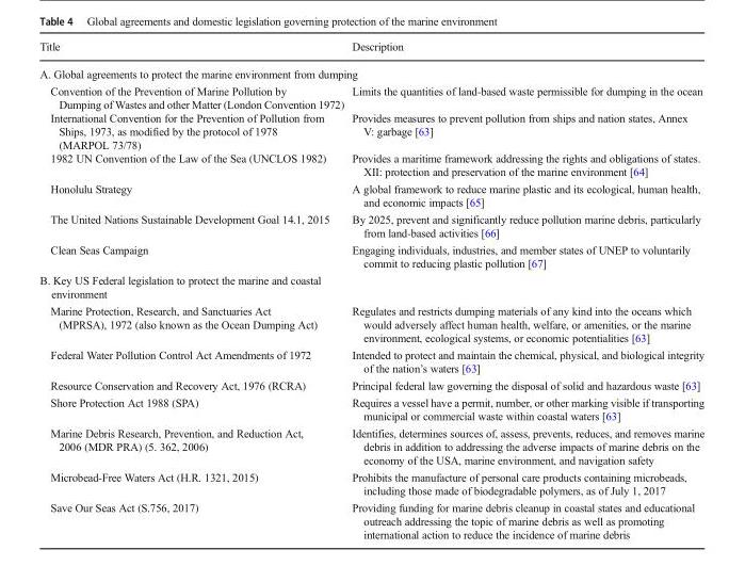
<table><thead><tr><td>Title</td><td>Description</td></tr></thead><tbody><tr><td colspan="2">A. Global agreements to protect the marine environment from dumping</td></tr><tr><td>Convention of the Prevention of Marine Pollution by Dumping of Wastes and other Matter (London Convention 1972)</td><td>Limits the quantities of land-based waste permissible for dumping in the ocean</td></tr><tr><td>International Convention for the Prevention of Pollution from Ships, 1973, as modified by the protocol of 1978 (MARPOL 73/78)</td><td>Provides measures to prevent pollution from ships and nation states, Annex V: garbage [63]</td></tr><tr><td>1982 UN Convention of the Law of the Sea (UNCLOS 1982)</td><td>Provides a maritime framework addressing the rights and obligations of states. XII: protection and preservation of the marine environment [64]</td></tr><tr><td>Honolulu Strategy</td><td>A global framework to reduce marine plastic and its ecological, human health, and economic impacts [65]</td></tr><tr><td>The United Nations Sustainable Development Goal 14.1, 2015</td><td>By 2025, prevent and significantly reduce pollution marine debris, particularly from land-based activities [66]</td></tr><tr><td>Clean Seas Campaign</td><td>Engaging individuals, industries, and member states of UNEP to voluntarily commit to reducing plastic pollution [67]</td></tr><tr><td colspan="2">B. Key US Federal legislation to protect the marine and coastal environment</td></tr><tr><td>Marine Protection, Research, and Sanctuaries Act (MPRSA), 1972 (also known as the Ocean Dumping Act)</td><td>Regulates and restricts dumping materials of any kind into the oceans which would adversely affect human health, welfare, or amenities, or the marine environment, ecological systems, or economic potentialities [63]</td></tr><tr><td>Federal Water Pollution Control Act Amendments of 1972</td><td>Intended to protect and maintain the chemical, physical, and biological integrity of the nation’s waters [63]</td></tr><tr><td>Resource Conservation and Recovery Act, 1976 (RCRA)</td><td>Principal federal law governing the disposal of solid and hazardous waste [63]</td></tr><tr><td>Shore Protection Act 1988 (SPA)</td><td>Requires a vessel have a permit, number, or other marking visible if transporting municipal or commercial waste within coastal waters [63]</td></tr><tr><td>Marine Debris Research, Prevention, and Reduction Act, 2006 (MDR PRA) (5. 362, 2006)</td><td>Identifies, determines sources of, assess, prevents, reduces, and removes marine debris in addition to addressing the adverse impacts of marine debris on the economy of the USA, marine environment, and navigation safety</td></tr><tr><td>Microbead-Free Waters Act (H.R. 1321, 2015)</td><td>Prohibits the manufacture of personal care products containing microbeads, including those made of biodegradable polymers, as of July 1, 2017</td></tr><tr><td>Save Our Seas Act (S.756, 2017)</td><td>Providing funding for marine debris cleanup in coastal states and educational outreach addressing the topic of marine debris as well as promoting international action to reduce the incidence of marine debris</td></tr></tbody></table>